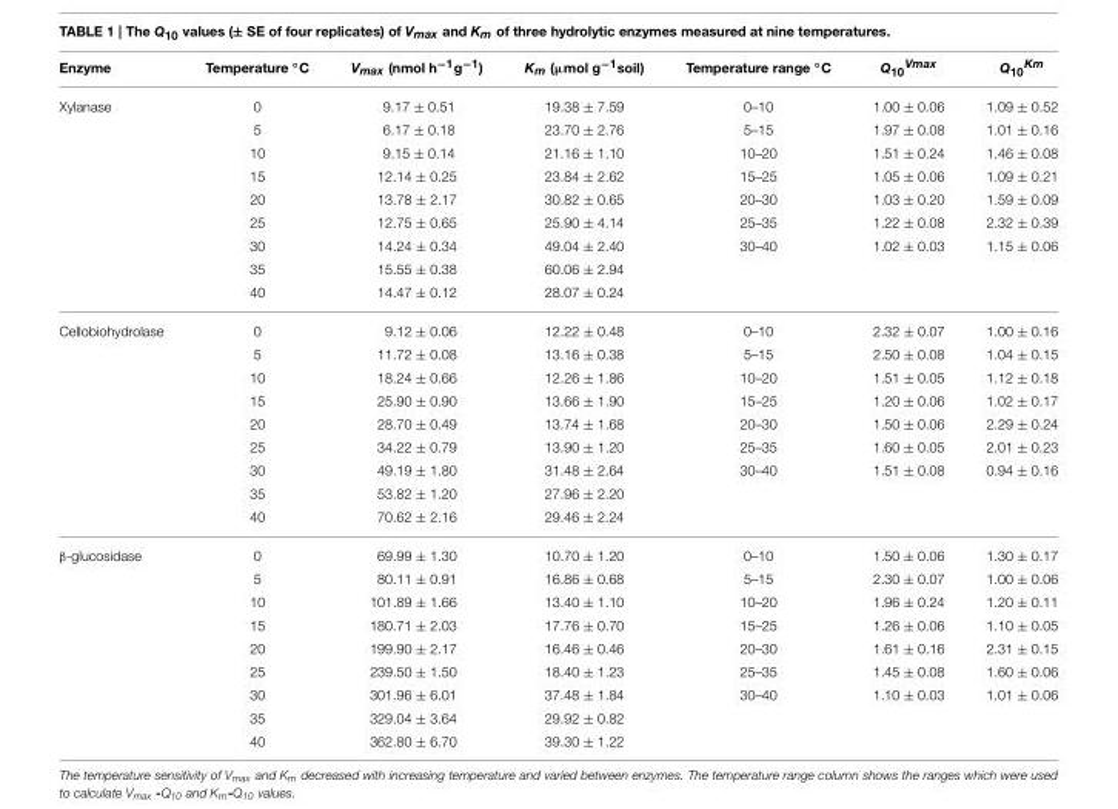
<table><thead><tr><td>Enzyme</td><td>Temperature ◦C</td><td>Vmax (nmol h−1g−1)</td><td>Km (µmol g−1soil)</td><td>Temperature range ◦C</td><td>Q10Vmax</td><td>Q10Km</td></tr></thead><tbody><tr><td rowspan="9">Xylanase</td><td>0</td><td>9.17 ± 0.51</td><td>19.38 ± 7.59</td><td>0–10</td><td>1.00 ± 0.06</td><td>1.09 ± 0.52</td></tr><tr><td>5</td><td>6.17 ± 0.18</td><td>23.70 ± 2.76</td><td>5–15</td><td>1.97 ± 0.08</td><td>1.01 ± 0.16</td></tr><tr><td>10</td><td>9.15 ± 0.14</td><td>21.16 ± 1.10</td><td>10–20</td><td>1.51 ± 0.24</td><td>1.46 ± 0.08</td></tr><tr><td>15</td><td>12.14 ± 0.25</td><td>23.84 ± 2.62</td><td>15–25</td><td>1.05 ± 0.06</td><td>1.09 ± 0.21</td></tr><tr><td>20</td><td>13.78 ± 2.17</td><td>30.82 ± 0.65</td><td>20–30</td><td>1.03 ± 0.20</td><td>1.59 ± 0.09</td></tr><tr><td>25</td><td>12.75 ± 0.65</td><td>25.90 ± 4.14</td><td>25–35</td><td>1.22 ± 0.08</td><td>2.32 ± 0.39</td></tr><tr><td>30</td><td>14.24 ± 0.34</td><td>49.04 ± 2.40</td><td>30–40</td><td>1.02 ± 0.03</td><td>1.15 ± 0.06</td></tr><tr><td>35</td><td>15.55 ± 0.38</td><td>60.06 ± 2.94</td><td></td><td></td><td></td></tr><tr><td>40</td><td>14.47 ± 0.12</td><td>28.07 ± 0.24</td><td></td><td></td><td></td></tr><tr><td rowspan="9">Cellobiohydrolase</td><td>0</td><td>9.12 ± 0.06</td><td>12.22 ± 0.48</td><td>0–10</td><td>2.32 ± 0.07</td><td>1.00 ± 0.16</td></tr><tr><td>5</td><td>11.72 ± 0.08</td><td>13.16 ± 0.38</td><td>5–15</td><td>2.50 ± 0.08</td><td>1.04 ± 0.15</td></tr><tr><td>10</td><td>18.24 ± 0.66</td><td>12.26 ± 1.86</td><td>10–20</td><td>1.51 ± 0.05</td><td>1.12 ± 0.18</td></tr><tr><td>15</td><td>25.90 ± 0.90</td><td>13.66 ± 1.90</td><td>15–25</td><td>1.20 ± 0.06</td><td>1.02 ± 0.17</td></tr><tr><td>20</td><td>28.70 ± 0.49</td><td>13.74 ± 1.68</td><td>20–30</td><td>1.50 ± 0.06</td><td>2.29 ± 0.24</td></tr><tr><td>25</td><td>34.22 ± 0.79</td><td>13.90 ± 1.20</td><td>25–35</td><td>1.60 ± 0.05</td><td>2.01 ± 0.23</td></tr><tr><td>30</td><td>49.19 ± 1.80</td><td>31.48 ± 2.64</td><td>30–40</td><td>1.51 ± 0.08</td><td>0.94 ± 0.16</td></tr><tr><td>35</td><td>53.82 ± 1.20</td><td>27.96 ± 2.20</td><td></td><td></td><td></td></tr><tr><td>40</td><td>70.62 ± 2.16</td><td>29.46 ± 2.24</td><td></td><td></td><td></td></tr><tr><td rowspan="9">β-glucosidase</td><td>0</td><td>69.99 ± 1.30</td><td>10.70 ± 1.20</td><td>0–10</td><td>1.50 ± 0.06</td><td>1.30 ± 0.17</td></tr><tr><td>5</td><td>80.11 ± 0.91</td><td>16.86 ± 0.68</td><td>5–15</td><td>2.30 ± 0.07</td><td>1.00 ± 0.06</td></tr><tr><td>10</td><td>101.89 ± 1.66</td><td>13.40 ± 1.10</td><td>10–20</td><td>1.96 ± 0.24</td><td>1.20 ± 0.11</td></tr><tr><td>15</td><td>180.71 ± 2.03</td><td>17.76 ± 0.70</td><td>15–25</td><td>1.26 ± 0.06</td><td>1.10 ± 0.05</td></tr><tr><td>20</td><td>199.90 ± 2.17</td><td>16.46 ± 0.46</td><td>20–30</td><td>1.61 ± 0.16</td><td>2.31 ± 0.15</td></tr><tr><td>25</td><td>239.50 ± 1.50</td><td>18.40 ± 1.23</td><td>25–35</td><td>1.45 ± 0.08</td><td>1.60 ± 0.06</td></tr><tr><td>30</td><td>301.96 ± 6.01</td><td>37.48 ± 1.84</td><td>30–40</td><td>1.10 ± 0.03</td><td>1.01 ± 0.06</td></tr><tr><td>35</td><td>329.04 ± 3.64</td><td>29.92 ± 0.82</td><td></td><td></td><td></td></tr><tr><td>40</td><td>362.80 ± 6.70</td><td>39.30 ± 1.22</td><td></td><td></td><td></td></tr></tbody></table>